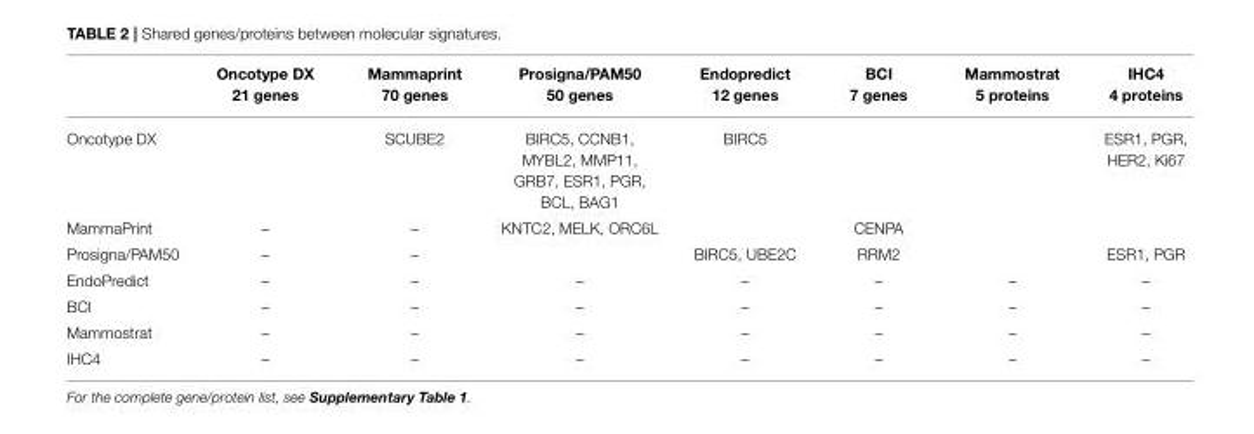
<table><thead><tr><td></td><td>Oncotype DX 21 genes</td><td>Mammaprint 70 genes</td><td>Prosigna/PAM50 50 genes</td><td>Endopredict 12 genes</td><td>BCI 7 genes</td><td>Mammostrat 5 proteins</td><td>IHC4 4 proteins</td></tr></thead><tbody><tr><td>Oncotype DX</td><td></td><td>SCUBE2</td><td>BIRC5, CCNB1, MYBL2, MMP11, GRB7, ESR1, PGR, BCL, BAG1</td><td>BIRC5</td><td></td><td></td><td>ESR1, PGR, HER2, Ki67</td></tr><tr><td>MammaPrint</td><td>–</td><td>–</td><td>KNTC2, MELK, ORC6L</td><td></td><td>CENPA</td><td></td><td></td></tr><tr><td>Prosigna/PAM50</td><td>–</td><td>–</td><td></td><td>BIRC5, UBE2C</td><td>RRM2</td><td></td><td>ESR1, PGR</td></tr><tr><td>EndoPredict</td><td>–</td><td>–</td><td>–</td><td>–</td><td>–</td><td>–</td><td>–</td></tr><tr><td>BCI</td><td>–</td><td>–</td><td>–</td><td>–</td><td>–</td><td>–</td><td>–</td></tr><tr><td>Mammostrat</td><td>–</td><td>–</td><td>–</td><td>–</td><td>–</td><td>–</td><td>–</td></tr><tr><td>IHC4</td><td>–</td><td>–</td><td>–</td><td>–</td><td>–</td><td>–</td><td>–</td></tr></tbody></table>